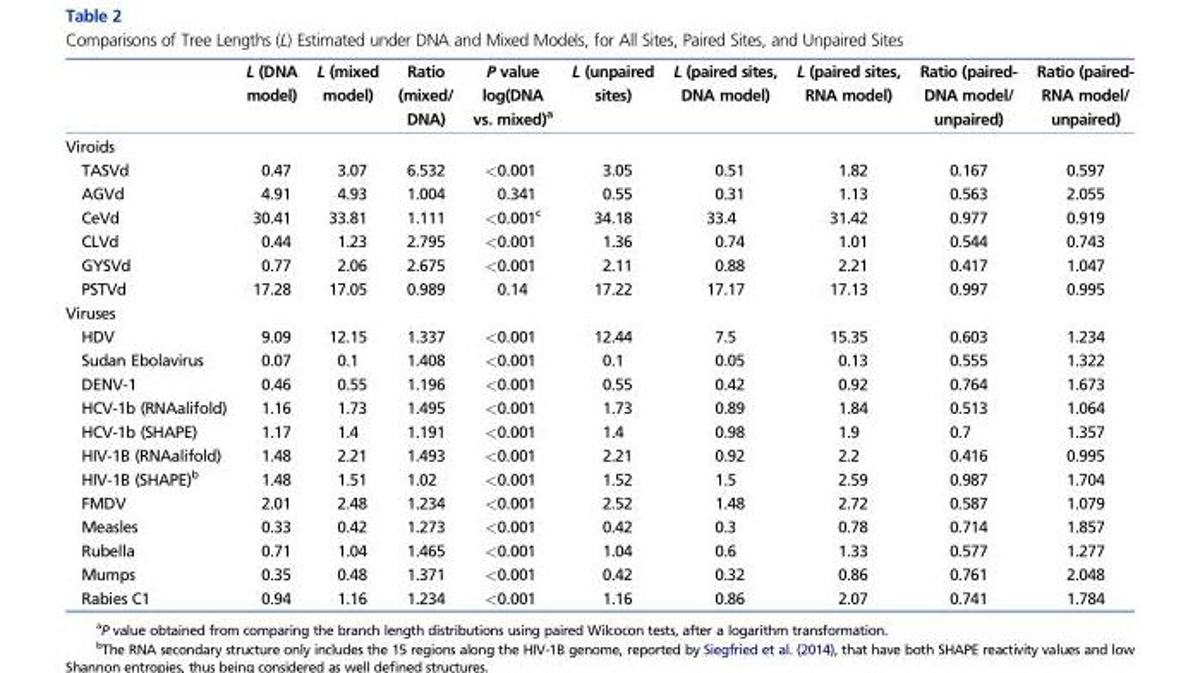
<table><thead><tr><td></td><td>L (DNA model)</td><td>L (mixed model)</td><td>Ratio (mixed/ DNA)</td><td>P value log(DNA vs. mixed)<sup>a</sup></td><td>L (unpaired sites)</td><td>L (paired sites, DNA model)</td><td>L (paired sites, RNA model)</td><td>Ratio (paired- DNA model/ unpaired)</td><td>Ratio (paired- RNA model/ unpaired)</td></tr></thead><tbody><tr><td colspan="10">Viroids</td></tr><tr><td>TASVd</td><td>0.47</td><td>3.07</td><td>6.532</td><td>&lt;0.001</td><td>3.05</td><td>0.51</td><td>1.82</td><td>0.167</td><td>0.597</td></tr><tr><td>AGVd</td><td>4.91</td><td>4.93</td><td>1.004</td><td>0.341</td><td>0.55</td><td>0.31</td><td>1.13</td><td>0.563</td><td>2.055</td></tr><tr><td>CeVd</td><td>30.41</td><td>33.81</td><td>1.111</td><td>&lt;0.001<sup>c</sup></td><td>34.18</td><td>33.4</td><td>31.42</td><td>0.977</td><td>0.919</td></tr><tr><td>CLVd</td><td>0.44</td><td>1.23</td><td>2.795</td><td>&lt;0.001</td><td>1.36</td><td>0.74</td><td>1.01</td><td>0.544</td><td>0.743</td></tr><tr><td>GYSVd</td><td>0.77</td><td>2.06</td><td>2.675</td><td>&lt;0.001</td><td>2.11</td><td>0.88</td><td>2.21</td><td>0.417</td><td>1.047</td></tr><tr><td>PSTVd</td><td>17.28</td><td>17.05</td><td>0.989</td><td>0.14</td><td>17.22</td><td>17.17</td><td>17.13</td><td>0.997</td><td>0.995</td></tr><tr><td colspan="10">Viruses</td></tr><tr><td>HDV</td><td>9.09</td><td>12.15</td><td>1.337</td><td>&lt;0.001</td><td>12.44</td><td>7.5</td><td>15.35</td><td>0.603</td><td>1.234</td></tr><tr><td>Sudan Ebolavirus</td><td>0.07</td><td>0.1</td><td>1.408</td><td>&lt;0.001</td><td>0.1</td><td>0.05</td><td>0.13</td><td>0.555</td><td>1.322</td></tr><tr><td>DENV-1</td><td>0.46</td><td>0.55</td><td>1.196</td><td>&lt;0.001</td><td>0.55</td><td>0.42</td><td>0.92</td><td>0.764</td><td>1.673</td></tr><tr><td>HCV-1b (RNAalifold)</td><td>1.16</td><td>1.73</td><td>1.495</td><td>&lt;0.001</td><td>1.73</td><td>0.89</td><td>1.84</td><td>0.513</td><td>1.064</td></tr><tr><td>HCV-1b (SHAPE)</td><td>1.17</td><td>1.4</td><td>1.191</td><td>&lt;0.001</td><td>1.4</td><td>0.98</td><td>1.9</td><td>0.7</td><td>1.357</td></tr><tr><td>HIV-1B (RNAalifold)</td><td>1.48</td><td>2.21</td><td>1.493</td><td>&lt;0.001</td><td>2.21</td><td>0.92</td><td>2.2</td><td>0.416</td><td>0.995</td></tr><tr><td>HIV-1B (SHAPE)<sup>b</sup></td><td>1.48</td><td>1.51</td><td>1.02</td><td>&lt;0.001</td><td>1.52</td><td>1.5</td><td>2.59</td><td>0.987</td><td>1.704</td></tr><tr><td>FMDV</td><td>2.01</td><td>2.48</td><td>1.234</td><td>&lt;0.001</td><td>2.52</td><td>1.48</td><td>2.72</td><td>0.587</td><td>1.079</td></tr><tr><td>Measles</td><td>0.33</td><td>0.42</td><td>1.273</td><td>&lt;0.001</td><td>0.42</td><td>0.3</td><td>0.78</td><td>0.714</td><td>1.857</td></tr><tr><td>Rubella</td><td>0.71</td><td>1.04</td><td>1.465</td><td>&lt;0.001</td><td>1.04</td><td>0.6</td><td>1.33</td><td>0.577</td><td>1.277</td></tr><tr><td>Mumps</td><td>0.35</td><td>0.48</td><td>1.371</td><td>&lt;0.001</td><td>0.42</td><td>0.32</td><td>0.86</td><td>0.761</td><td>2.048</td></tr><tr><td>Rabies C1</td><td>0.94</td><td>1.16</td><td>1.234</td><td>&lt;0.001</td><td>1.16</td><td>0.86</td><td>2.07</td><td>0.741</td><td>1.784</td></tr></tbody></table>